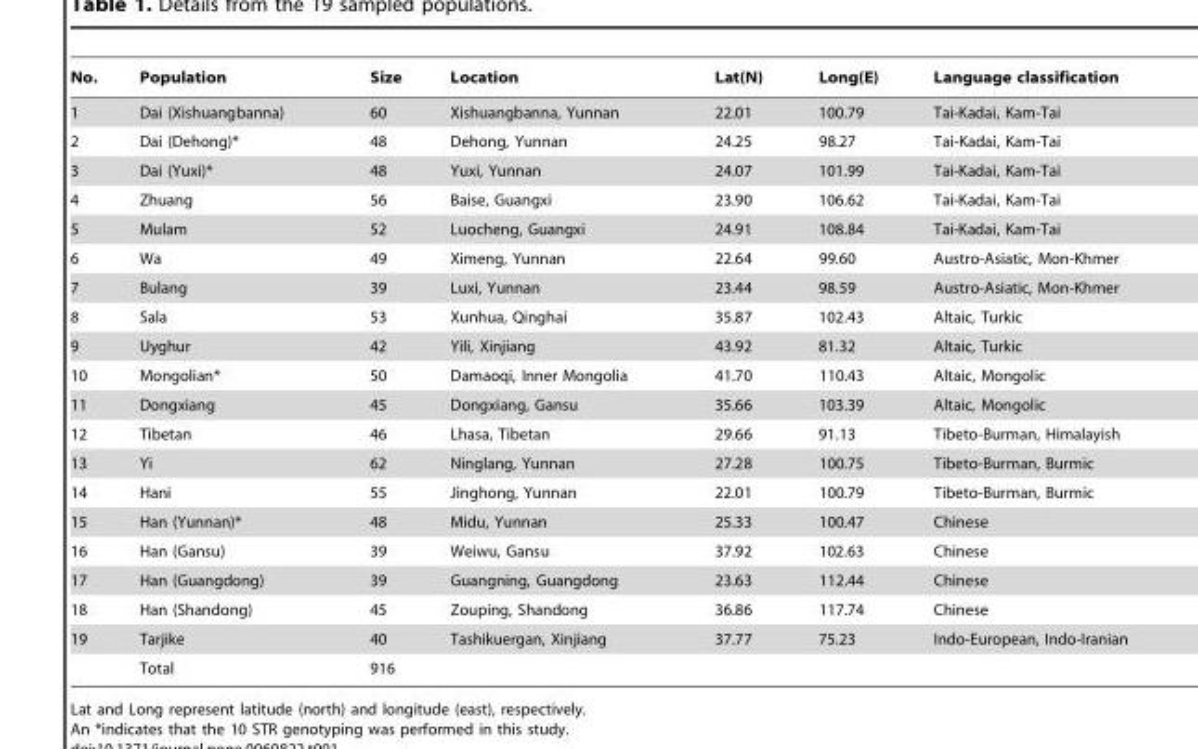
<table><thead><tr><td>No.</td><td>Population</td><td>Size</td><td>Location</td><td>Lat(N)</td><td>Long(E)</td><td>Language classification</td></tr></thead><tbody><tr><td>1</td><td>Dai (Xishuangbanna)</td><td>60</td><td>Xishuangbanna, Yunnan</td><td>22.01</td><td>100.79</td><td>Tai-Kadai, Kam-Tai</td></tr><tr><td>2</td><td>Dai (Dehong)*</td><td>48</td><td>Dehong, Yunnan</td><td>24.25</td><td>98.27</td><td>Tai-Kadai, Kam-Tai</td></tr><tr><td>3</td><td>Dai (Yuxi)*</td><td>48</td><td>Yuxi, Yunnan</td><td>24.07</td><td>101.99</td><td>Tai-Kadai, Kam-Tai</td></tr><tr><td>4</td><td>Zhuang</td><td>56</td><td>Baise, Guangxi</td><td>23.90</td><td>106.62</td><td>Tai-Kadai, Kam-Tai</td></tr><tr><td>5</td><td>Mulam</td><td>52</td><td>Luocheng, Guangxi</td><td>24.91</td><td>108.84</td><td>Tai-Kadai, Kam-Tai</td></tr><tr><td>6</td><td>Wa</td><td>49</td><td>Ximeng, Yunnan</td><td>22.64</td><td>99.60</td><td>Austro-Asiatic, Mon-Khmer</td></tr><tr><td>7</td><td>Bulang</td><td>39</td><td>Luxi, Yunnan</td><td>23.44</td><td>98.59</td><td>Austro-Asiatic, Mon-Khmer</td></tr><tr><td>8</td><td>Sala</td><td>53</td><td>Xunhua, Qinghai</td><td>35.87</td><td>102.43</td><td>Altaic, Turkic</td></tr><tr><td>9</td><td>Uyghur</td><td>42</td><td>Yili, Xinjiang</td><td>43.92</td><td>81.32</td><td>Altaic, Turkic</td></tr><tr><td>10</td><td>Mongolian*</td><td>50</td><td>Damaoqi, Inner Mongolia</td><td>41.70</td><td>110.43</td><td>Altaic, Mongolic</td></tr><tr><td>11</td><td>Dongxiang</td><td>45</td><td>Dongxiang, Gansu</td><td>35.66</td><td>103.39</td><td>Altaic, Mongolic</td></tr><tr><td>12</td><td>Tibetan</td><td>46</td><td>Lhasa, Tibetan</td><td>29.66</td><td>91.13</td><td>Tibeto-Burman, Himalayish</td></tr><tr><td>13</td><td>Yi</td><td>62</td><td>Ninglang, Yunnan</td><td>27.28</td><td>100.75</td><td>Tibeto-Burman, Burmic</td></tr><tr><td>14</td><td>Hani</td><td>55</td><td>Jinghong, Yunnan</td><td>22.01</td><td>100.79</td><td>Tibeto-Burman, Burmic</td></tr><tr><td>15</td><td>Han (Yunnan)*</td><td>48</td><td>Midu, Yunnan</td><td>25.33</td><td>100.47</td><td>Chinese</td></tr><tr><td>16</td><td>Han (Gansu)</td><td>39</td><td>Weiwu, Gansu</td><td>37.92</td><td>102.63</td><td>Chinese</td></tr><tr><td>17</td><td>Han (Guangdong)</td><td>39</td><td>Guangning, Guangdong</td><td>23.63</td><td>112.44</td><td>Chinese</td></tr><tr><td>18</td><td>Han (Shandong)</td><td>45</td><td>Zouping, Shandong</td><td>36.86</td><td>117.74</td><td>Chinese</td></tr><tr><td rowspan="2">19</td><td>Tarjike</td><td>40</td><td>Tashikuergan, Xinjiang</td><td>37.77</td><td>75.23</td><td>Indo-European, Indo-Iranian</td></tr><tr><td>Total</td><td>916</td><td></td><td></td><td></td><td></td></tr></tbody></table>